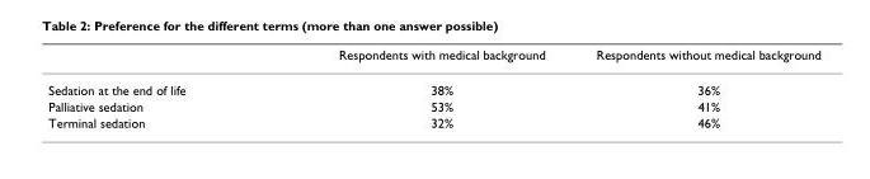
<table><thead><tr><td></td><td>Respondents with medical background</td><td>Respondents without medical background</td></tr></thead><tbody><tr><td>Sedation at the end of life</td><td>38%</td><td>36%</td></tr><tr><td>Palliative sedation</td><td>53%</td><td>41%</td></tr><tr><td>Terminal sedation</td><td>32%</td><td>46%</td></tr></tbody></table>